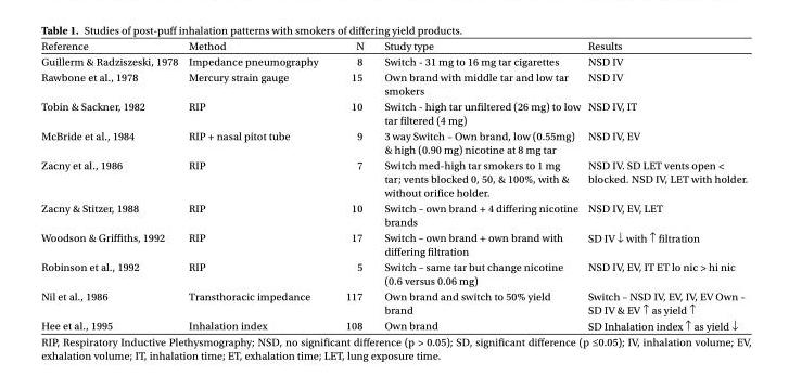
<table><thead><tr><td>Reference</td><td>Method</td><td>N</td><td>Study type</td><td>Results</td></tr></thead><tbody><tr><td>Guillerm &amp; Radziszeski, 1978</td><td>Impedance pneumography</td><td>8</td><td>Switch - 31 mg to 16 mg tar cigarettes</td><td>NSD IV</td></tr><tr><td>Rawbone et al., 1978</td><td>Mercury strain gauge</td><td>15</td><td>Own brand with middle tar and low tar smokers</td><td>NSD IV</td></tr><tr><td>Tobin &amp; Sackner, 1982</td><td>RIP</td><td>10</td><td>Switch - high tar unfiltered (26 mg) to low tar filtered (4 mg)</td><td>NSD IV, IT</td></tr><tr><td>McBride et al., 1984</td><td>RIP + nasal pitot tube</td><td>9</td><td>3 way Switch – Own brand, low (0.55mg) &amp; high (0.90 mg) nicotine at 8 mg tar</td><td>NSD IV, EV</td></tr><tr><td>Zacny et al., 1986</td><td>RIP</td><td>7</td><td>Switch med-high tar smokers to 1 mg tar; vents blocked 0, 50, &amp; 100%, with &amp; without orifice holder.</td><td>NSD IV. SD LET vents open &lt; blocked. NSD IV, LET with holder.</td></tr><tr><td>Zacny &amp; Stitzer, 1988</td><td>RIP</td><td>10</td><td>Switch – own brand + 4 differing nicotine brands</td><td>NSD IV, EV, LET</td></tr><tr><td>Woodson &amp; Griffiths, 1992</td><td>RIP</td><td>17</td><td>Switch – own brand + own brand with differing filtration</td><td>SD IV ↓ with ↑ filtration</td></tr><tr><td>Robinson et al., 1992</td><td>RIP</td><td>5</td><td>Switch – same tar but change nicotine (0.6 versus 0.06 mg)</td><td>NSD IV, EV, IT ET lo nic &gt; hi nic</td></tr><tr><td>Nil et al., 1986</td><td>Transthoracic impedance</td><td>117</td><td>Own brand and switch to 50% yield brand</td><td>Switch – NSD IV, EV, IV, EV Own – SD IV &amp; EV ↑ as yield ↑</td></tr><tr><td>Hee et al., 1995</td><td>Inhalation index</td><td>108</td><td>Own brand</td><td>SD Inhalation index ↑ as yield ↓</td></tr></tbody></table>